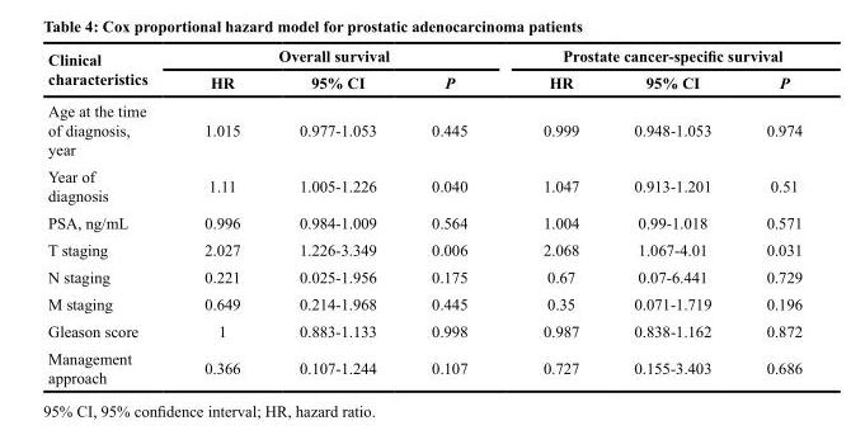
<table><thead><tr><td rowspan="2">Clinical characteristics</td><td colspan="3">Overall survival</td><td colspan="3">Prostate cancer-specific survival</td></tr><tr><td>HR</td><td>95% CI</td><td>P</td><td>HR</td><td>95% CI</td><td>P</td></tr></thead><tbody><tr><td>Age at the time of diagnosis, year</td><td>1.015</td><td>0.977-1.053</td><td>0.445</td><td>0.999</td><td>0.948-1.053</td><td>0.974</td></tr><tr><td>Year of diagnosis</td><td>1.11</td><td>1.005-1.226</td><td>0.040</td><td>1.047</td><td>0.913-1.201</td><td>0.51</td></tr><tr><td>PSA, ng/mL</td><td>0.996</td><td>0.984-1.009</td><td>0.564</td><td>1.004</td><td>0.99-1.018</td><td>0.571</td></tr><tr><td>T staging</td><td>2.027</td><td>1.226-3.349</td><td>0.006</td><td>2.068</td><td>1.067-4.01</td><td>0.031</td></tr><tr><td>N staging</td><td>0.221</td><td>0.025-1.956</td><td>0.175</td><td>0.67</td><td>0.07-6.441</td><td>0.729</td></tr><tr><td>M staging</td><td>0.649</td><td>0.214-1.968</td><td>0.445</td><td>0.35</td><td>0.071-1.719</td><td>0.196</td></tr><tr><td>Gleason score</td><td>1</td><td>0.883-1.133</td><td>0.998</td><td>0.987</td><td>0.838-1.162</td><td>0.872</td></tr><tr><td>Management approach</td><td>0.366</td><td>0.107-1.244</td><td>0.107</td><td>0.727</td><td>0.155-3.403</td><td>0.686</td></tr></tbody></table>